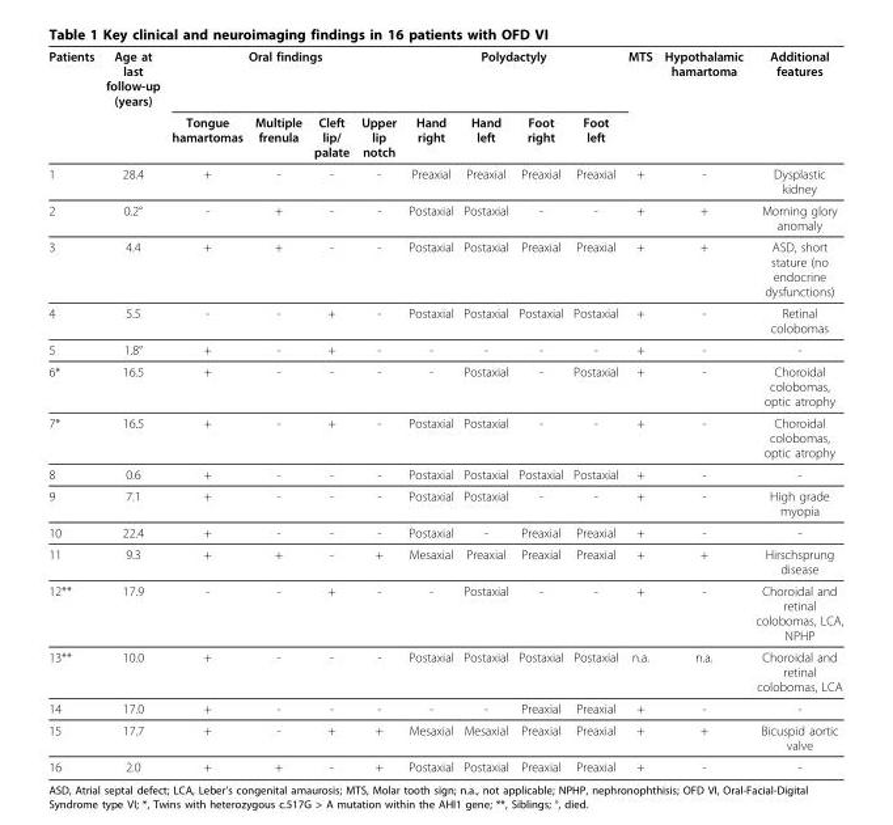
<table><thead><tr><td rowspan="2">Patients</td><td rowspan="2">Age at last follow-up (years)</td><td colspan="4">Oral findings</td><td colspan="4">Polydactyly</td><td rowspan="2">MTS</td><td rowspan="2">Hypothalamic hamartoma</td><td rowspan="2">Additional features</td></tr><tr><td>Tongue hamartomas</td><td>Multiple frenula</td><td>Cleft lip/ palate</td><td>Upper lip notch</td><td>Hand right</td><td>Hand left</td><td>Foot right</td><td>Foot left</td></tr></thead><tbody><tr><td>1</td><td>28.4</td><td>+</td><td>-</td><td>-</td><td>-</td><td>Preaxial</td><td>Preaxial</td><td>Preaxial</td><td>Preaxial</td><td>+</td><td>-</td><td>Dysplastic kidney</td></tr><tr><td>2</td><td>0.2°</td><td>-</td><td>+</td><td>-</td><td>-</td><td>Postaxial</td><td>Postaxial</td><td>-</td><td>-</td><td>+</td><td>+</td><td>Morning glory anomaly</td></tr><tr><td>3</td><td>4.4</td><td>+</td><td>+</td><td>-</td><td>-</td><td>Postaxial</td><td>Postaxial</td><td>Preaxial</td><td>Preaxial</td><td>+</td><td>+</td><td>ASD, short stature (no endocrine dysfunctions)</td></tr><tr><td>4</td><td>5.5</td><td>-</td><td>-</td><td>+</td><td>-</td><td>Postaxial</td><td>Postaxial</td><td>Postaxial</td><td>Postaxial</td><td>+</td><td>-</td><td>Retinal colobomas</td></tr><tr><td>5</td><td>1.8°</td><td>+</td><td>-</td><td>+</td><td>-</td><td>-</td><td>-</td><td>-</td><td>-</td><td>+</td><td>-</td><td>-</td></tr><tr><td>6*</td><td>16.5</td><td>+</td><td>-</td><td>-</td><td>-</td><td>-</td><td>Postaxial</td><td>-</td><td>Postaxial</td><td>+</td><td>-</td><td>Choroidal colobomas, optic atrophy</td></tr><tr><td>7*</td><td>16.5</td><td>+</td><td>-</td><td>+</td><td>-</td><td>Postaxial</td><td>Postaxial</td><td>-</td><td>-</td><td>+</td><td>-</td><td>Choroidal colobomas, optic atrophy</td></tr><tr><td>8</td><td>0.6</td><td>+</td><td>-</td><td>-</td><td>-</td><td>Postaxial</td><td>Postaxial</td><td>Postaxial</td><td>Postaxial</td><td>+</td><td>-</td><td>-</td></tr><tr><td>9</td><td>7.1</td><td>+</td><td>-</td><td>-</td><td>-</td><td>Postaxial</td><td>Postaxial</td><td>-</td><td>-</td><td>+</td><td>-</td><td>High grade myopia</td></tr><tr><td>10</td><td>22.4</td><td>+</td><td>-</td><td>-</td><td>-</td><td>Postaxial</td><td>-</td><td>Preaxial</td><td>Preaxial</td><td>+</td><td>-</td><td>-</td></tr><tr><td>11</td><td>9.3</td><td>+</td><td>+</td><td>-</td><td>+</td><td>Mesaxial</td><td>Preaxial</td><td>Preaxial</td><td>Preaxial</td><td>+</td><td>+</td><td>Hirschsprung disease</td></tr><tr><td>12**</td><td>17.9</td><td>-</td><td>-</td><td>+</td><td>-</td><td>-</td><td>Postaxial</td><td>-</td><td>-</td><td>+</td><td>-</td><td>Choroidal and retinal colobomas, LCA, NPHP</td></tr><tr><td>13**</td><td>10.0</td><td>+</td><td>-</td><td>-</td><td>-</td><td>Postaxial</td><td>Postaxial</td><td>Postaxial</td><td>Postaxial</td><td>n.a.</td><td>n.a.</td><td>Choroidal and retinal colobomas, LCA</td></tr><tr><td>14</td><td>17.0</td><td>+</td><td>-</td><td>-</td><td>-</td><td>-</td><td>-</td><td>Preaxial</td><td>Preaxial</td><td>+</td><td>-</td><td>-</td></tr><tr><td>15</td><td>17.7</td><td>+</td><td>-</td><td>+</td><td>+</td><td>Mesaxial</td><td>Mesaxial</td><td>Preaxial</td><td>Preaxial</td><td>+</td><td>+</td><td>Bicuspid aortic valve</td></tr><tr><td>16</td><td>2.0</td><td>+</td><td>+</td><td>-</td><td>+</td><td>Postaxial</td><td>Postaxial</td><td>Preaxial</td><td>Preaxial</td><td>+</td><td>-</td><td>-</td></tr></tbody></table>